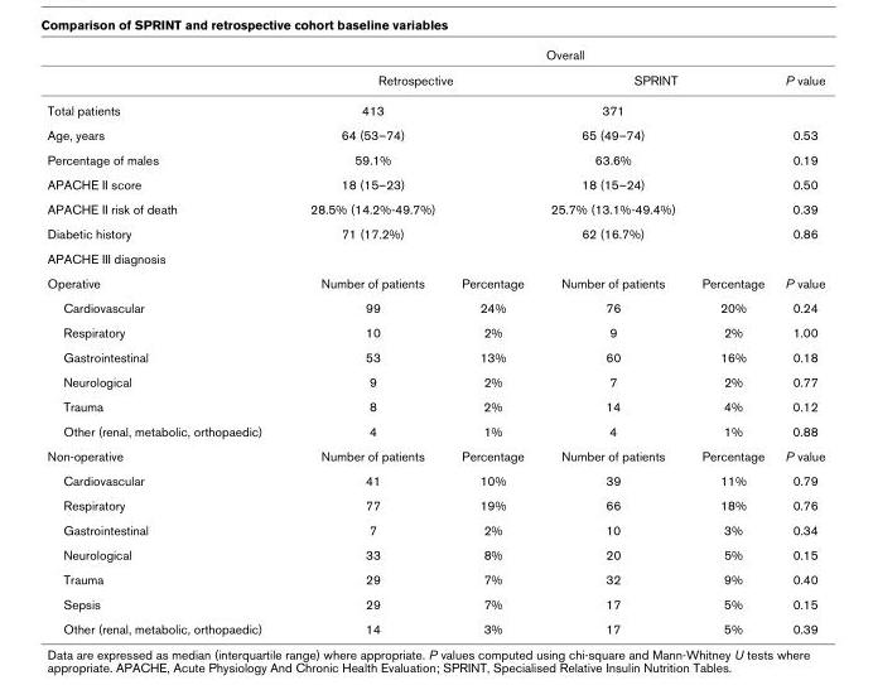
<table><thead><tr><td rowspan="3">Total patients</td><td colspan="5">Overall</td></tr><tr><td colspan="2">Retrospective</td><td colspan="2">SPRINT</td><td rowspan="2">P value</td></tr><tr><td>413</td><td></td><td>371</td><td></td></tr></thead><tbody><tr><td>Age, years</td><td>64 (53–74)</td><td></td><td>65 (49–74)</td><td></td><td>0.53</td></tr><tr><td>Percentage of males</td><td>59.1%</td><td></td><td>63.6%</td><td></td><td>0.19</td></tr><tr><td>APACHE II score</td><td>18 (15–23)</td><td></td><td>18 (15–24)</td><td></td><td>0.50</td></tr><tr><td>APACHE II risk of death</td><td>28.5% (14.2%-49.7%)</td><td></td><td>25.7% (13.1%-49.4%)</td><td></td><td>0.39</td></tr><tr><td>Diabetic history</td><td>71 (17.2%)</td><td></td><td>62 (16.7%)</td><td></td><td>0.86</td></tr><tr><td colspan="6">APACHE III diagnosis</td></tr><tr><td>Operative</td><td>Number of patients</td><td>Percentage</td><td>Number of patients</td><td>Percentage</td><td>P value</td></tr><tr><td>Cardiovascular</td><td>99</td><td>24%</td><td>76</td><td>20%</td><td>0.24</td></tr><tr><td>Respiratory</td><td>10</td><td>2%</td><td>9</td><td>2%</td><td>1.00</td></tr><tr><td>Gastrointestinal</td><td>53</td><td>13%</td><td>60</td><td>16%</td><td>0.18</td></tr><tr><td>Neurological</td><td>9</td><td>2%</td><td>7</td><td>2%</td><td>0.77</td></tr><tr><td>Trauma</td><td>8</td><td>2%</td><td>14</td><td>4%</td><td>0.12</td></tr><tr><td>Other (renal, metabolic, orthopaedic)</td><td>4</td><td>1%</td><td>4</td><td>1%</td><td>0.88</td></tr><tr><td>Non-operative</td><td>Number of patients</td><td>Percentage</td><td>Number of patients</td><td>Percentage</td><td>P value</td></tr><tr><td>Cardiovascular</td><td>41</td><td>10%</td><td>39</td><td>11%</td><td>0.79</td></tr><tr><td>Respiratory</td><td>77</td><td>19%</td><td>66</td><td>18%</td><td>0.76</td></tr><tr><td>Gastrointestinal</td><td>7</td><td>2%</td><td>10</td><td>3%</td><td>0.34</td></tr><tr><td>Neurological</td><td>33</td><td>8%</td><td>20</td><td>5%</td><td>0.15</td></tr><tr><td>Trauma</td><td>29</td><td>7%</td><td>32</td><td>9%</td><td>0.40</td></tr><tr><td>Sepsis</td><td>29</td><td>7%</td><td>17</td><td>5%</td><td>0.15</td></tr><tr><td>Other (renal, metabolic, orthopaedic)</td><td>14</td><td>3%</td><td>17</td><td>5%</td><td>0.39</td></tr></tbody></table>